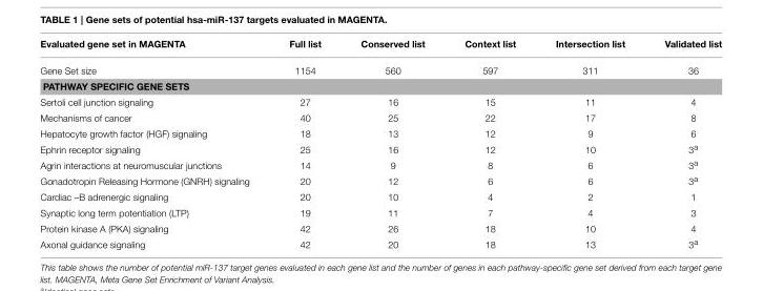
<table><thead><tr><td>Evaluated gene set in MAGENTA</td><td>Full list</td><td>Conserved list</td><td>Context list</td><td>Intersection list</td><td>Validated list</td></tr></thead><tbody><tr><td>Gene Set size</td><td>1154</td><td>560</td><td>597</td><td>311</td><td>36</td></tr><tr><td colspan="6">PATHWAY SPECIFIC GENE SETS</td></tr><tr><td>Sertoli cell junction signaling</td><td>27</td><td>16</td><td>15</td><td>11</td><td>4</td></tr><tr><td>Mechanisms of cancer</td><td>40</td><td>25</td><td>22</td><td>17</td><td>8</td></tr><tr><td>Hepatocyte growth factor (HGF) signaling</td><td>18</td><td>13</td><td>12</td><td>9</td><td>6</td></tr><tr><td>Ephrin receptor signaling</td><td>25</td><td>16</td><td>12</td><td>10</td><td>3<sup>a</sup></td></tr><tr><td>Agrin interactions at neuromuscular junctions</td><td>14</td><td>9</td><td>8</td><td>6</td><td>3<sup>a</sup></td></tr><tr><td>Gonadotropin Releasing Hormone (GNRH) signaling</td><td>20</td><td>12</td><td>6</td><td>6</td><td>3<sup>a</sup></td></tr><tr><td>Cardiac –B adrenergic signaling</td><td>20</td><td>10</td><td>4</td><td>2</td><td>1</td></tr><tr><td>Synaptic long term potentiation (LTP)</td><td>19</td><td>11</td><td>7</td><td>4</td><td>3</td></tr><tr><td>Protein kinase A (PKA) signaling</td><td>42</td><td>26</td><td>18</td><td>10</td><td>4</td></tr><tr><td>Axonal guidance signaling</td><td>42</td><td>20</td><td>18</td><td>13</td><td>3<sup>a</sup></td></tr></tbody></table>